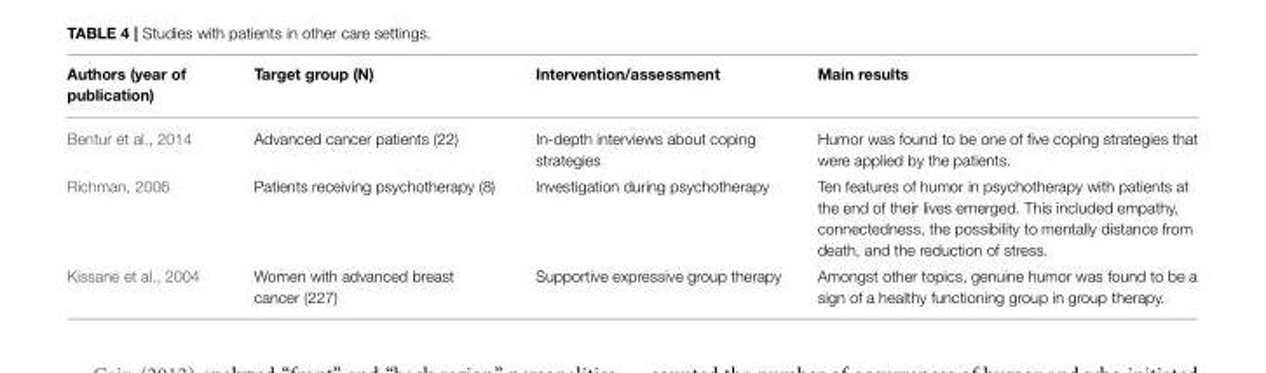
<table><thead><tr><td>Authors (year of publication)</td><td>Target group (N)</td><td>Intervention/assessment</td><td>Main results</td></tr></thead><tbody><tr><td>Bentur et al., 2014</td><td>Advanced cancer patients (22)</td><td>In-depth interviews about coping strategies</td><td>Humor was found to be one of five coping strategies that were applied by the patients.</td></tr><tr><td>Richman, 2006</td><td>Patients receiving psychotherapy (8)</td><td>Investigation during psychotherapy</td><td>Ten features of humor in psychotherapy with patients at the end of their lives emerged. This included empathy, connectedness, the possibility to mentally distance from death, and the reduction of stress.</td></tr><tr><td>Kissane et al., 2004</td><td>Women with advanced breast cancer (227)</td><td>Supportive expressive group therapy</td><td>Amongst other topics, genuine humor was found to be a sign of a healthy functioning group in group therapy.</td></tr></tbody></table>